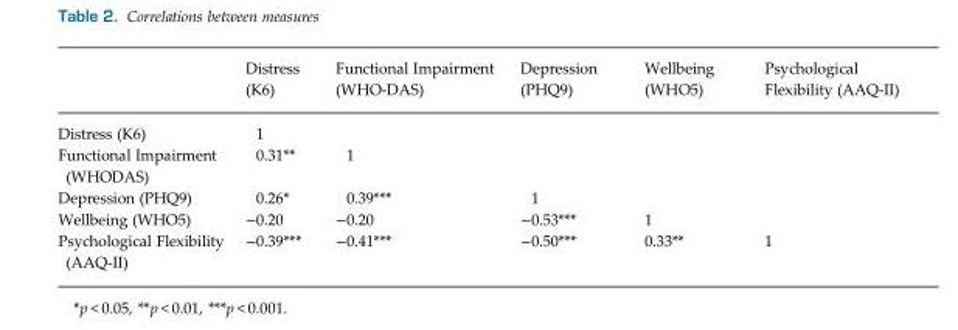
<table><thead><tr><td></td><td>Distress (K6)</td><td>Functional Impairment (WHO-DAS)</td><td>Depression (PHQ9)</td><td>Wellbeing (WHO5)</td><td>Psychological Flexibility (AAQ-II)</td></tr></thead><tbody><tr><td>Distress (K6)</td><td>1</td><td></td><td></td><td></td><td></td></tr><tr><td>Functional Impairment (WHODAS)</td><td>0.31**</td><td>1</td><td></td><td></td><td></td></tr><tr><td>Depression (PHQ9)</td><td>0.26*</td><td>0.39***</td><td>1</td><td></td><td></td></tr><tr><td>Wellbeing (WHO5)</td><td>−0.20</td><td>−0.20</td><td>−0.53***</td><td>1</td><td></td></tr><tr><td>Psychological Flexibility (AAQ-II)</td><td>−0.39***</td><td>−0.41***</td><td>−0.50***</td><td>0.33**</td><td>1</td></tr></tbody></table>